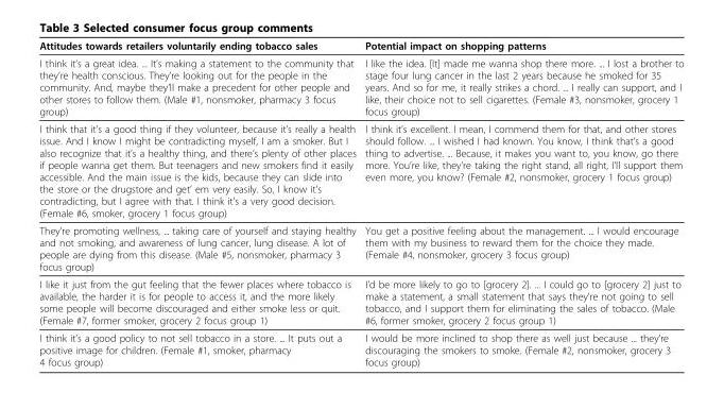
<table><thead><tr><td>Attitudes towards retailers voluntarily ending tobacco sales</td><td>Potential impact on shopping patterns</td></tr></thead><tbody><tr><td>I think it’s a great idea. ... It’s making a statement to the community that they’re health conscious. They’re looking out for the people in the community. And, maybe they’ll make a precedent for other people and other stores to follow them. (Male #1, nonsmoker, pharmacy 3 focus group)</td><td>I like the idea. [It] made me wanna shop there more. ... I lost a brother to stage four lung cancer in the last 2 years because he smoked for 35 years. And so for me, it really strikes a chord. ... I really can support, and I like, their choice not to sell cigarettes. (Female #3, nonsmoker, grocery 1 focus group)</td></tr><tr><td>I think that it’s a good thing if they volunteer, because it’s really a health issue. And I know I might be contradicting myself, I am a smoker. But I also recognize that it’s a healthy thing, and there’s plenty of other places if people wanna get them. But teenagers and new smokers find it easily accessible. And the main issue is the kids, because they can slide into the store or the drugstore and get’ em very easily. So, I know it’s contradicting, but I agree with that. I think it’s a very good decision. (Female #6, smoker, grocery 1 focus group)</td><td>I think it’s excellent. I mean, I commend them for that, and other stores should follow. ... I wished I had known. You know, I think that’s a good thing to advertise. ... Because, it makes you want to, you know, go there more. You’re like, they’re taking the right stand, all right, I’ll support them even more, you know? (Female #2, nonsmoker, grocery 1 focus group)</td></tr><tr><td>They’re promoting wellness, ... taking care of yourself and staying healthy and not smoking, and awareness of lung cancer, lung disease. A lot of people are dying from this disease. (Male #5, nonsmoker, pharmacy 3 focus group)</td><td>You get a positive feeling about the management. ... I would encourage them with my business to reward them for the choice they made. (Female #4, nonsmoker, grocery 3 focus group)</td></tr><tr><td>I like it just from the gut feeling that the fewer places where tobacco is available, the harder it is for people to access it, and the more likely some people will become discouraged and either smoke less or quit. (Female #7, former smoker, grocery 2 focus group 1)</td><td>I’d be more likely to go to [grocery 2]. ... I could go to [grocery 2] just to make a statement, a small statement that says they’re not going to sell tobacco, and I support them for eliminating the sales of tobacco. (Male #6, former smoker, grocery 2 focus group 1)</td></tr><tr><td>I think it’s a good policy to not sell tobacco in a store. ... It puts out a positive image for children. (Female #1, smoker, pharmacy 4 focus group)</td><td>I would be more inclined to shop there as well just because ... they’re discouraging the smokers to smoke. (Female #2, nonsmoker, grocery 3 focus group)</td></tr></tbody></table>